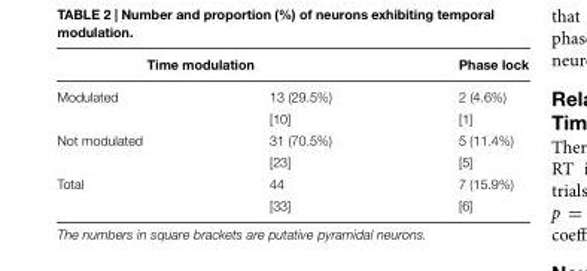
<table><thead><tr><td colspan="2">Time modulation</td><td rowspan="2">Phase lock 2 (4.6%)</td></tr><tr><td>Modulated</td><td>13 (29.5%)</td></tr></thead><tbody><tr><td></td><td>[10]</td><td>[1]</td></tr><tr><td rowspan="2">Not modulated</td><td>31 (70.5%)</td><td>5 (11.4%)</td></tr><tr><td>[23]</td><td>[5]</td></tr><tr><td rowspan="2">Total</td><td>44</td><td>7 (15.9%)</td></tr><tr><td>[33]</td><td>[6]</td></tr></tbody></table>